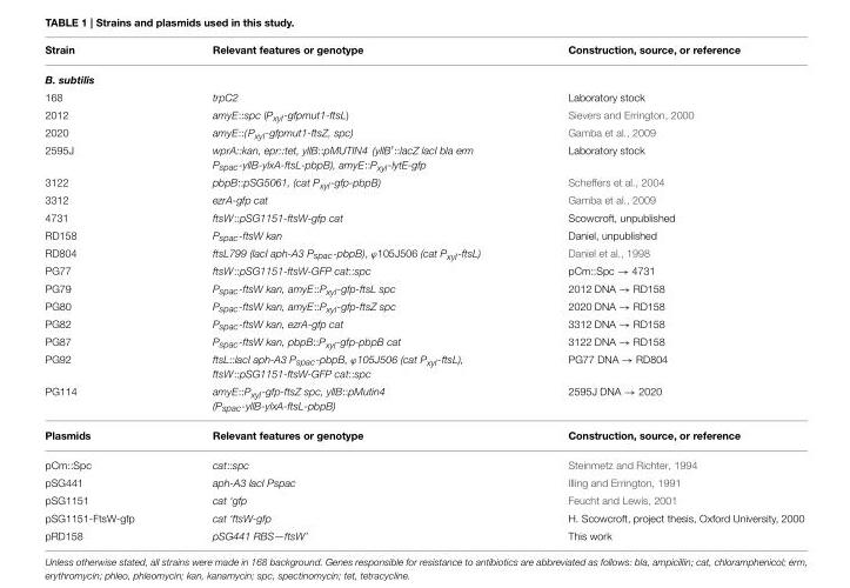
<table><thead><tr><td>Strain</td><td>Relevant features or genotype</td><td>Construction, source, or reference</td></tr></thead><tbody><tr><td colspan="3">B. subtilis</td></tr><tr><td>168</td><td>trpC2</td><td>Laboratory stock</td></tr><tr><td>2012</td><td>amyE::spc (Pxyl-gfpmut1-ftsL)</td><td>Sievers and Errington, 2000</td></tr><tr><td>2020</td><td>amyE::(P<sub>xyl</sub>-gfpmut1-ftsZ, spc)</td><td>Gamba et al., 2009</td></tr><tr><td>2595J</td><td>wprA::kan, epr::tet, yllB::pMUTIN4 (yllB′::lacZ lacI bla erm Pspac-yllB-ylxA-ftsL-pbpB), amyE::Pxyl-lytE-gfp</td><td>Laboratory stock</td></tr><tr><td>3122</td><td>pbpB::pSG5061, (cat Pxyl-gfp-pbpB)</td><td>Scheffers et al., 2004</td></tr><tr><td>3312</td><td>ezrA-gfp cat</td><td>Gamba et al., 2009</td></tr><tr><td>4731</td><td>ftsW::pSG1151-ftsW-gfp cat</td><td>Scowcroft, unpublished</td></tr><tr><td>RD158</td><td>Pspac-ftsW kan</td><td>Daniel, unpublished</td></tr><tr><td>RD804</td><td>ftsL799 (lacI aph-A3 Pspac-pbpB), ϕ105J506 (cat Pxyl-ftsL)</td><td>Daniel et al., 1998</td></tr><tr><td>PG77</td><td>ftsW::pSG1151-ftsW-GFP cat::spc</td><td>pCm::Spc → 4731</td></tr><tr><td>PG79</td><td>Pspac-ftsW kan, amyE::Pxyl-gfp-ftsL spc</td><td>2012 DNA → RD158</td></tr><tr><td>PG80</td><td>Pspac-ftsW kan, amyE::Pxyl-gfp-ftsZ spc</td><td>2020 DNA → RD158</td></tr><tr><td>PG82</td><td>Pspac-ftsW kan, ezrA-gfp cat</td><td>3312 DNA → RD158</td></tr><tr><td>PG87</td><td>Pspac-ftsW kan, pbpB::Pxyl-gfp-pbpB cat</td><td>3122 DNA → RD158</td></tr><tr><td>PG92</td><td>ftsL::lacI aph-A3 Pspac-pbpB, ϕ105J506 (cat Pxyl-ftsL), ftsW::pSG1151-ftsW-GFP cat::spc</td><td>PG77 DNA → RD804</td></tr><tr><td>PG114</td><td>amyE::Pxyl-gfp-ftsZ spc, yllB::pMutin4 (Pspac-yllB-ylxA-ftsL-pbpB)</td><td>2595J DNA → 2020</td></tr><tr><td>Plasmids</td><td>Relevant features or genotype</td><td>Construction, source, or reference</td></tr><tr><td>pCm::Spc</td><td>cat::spc</td><td>Steinmetz and Richter, 1994</td></tr><tr><td>pSG441</td><td>aph-A3 lacI Pspac</td><td>Illing and Errington, 1991</td></tr><tr><td>pSG1151</td><td>cat ‘gfp</td><td>Feucht and Lewis, 2001</td></tr><tr><td>pSG1151-FtsW-gfp</td><td>cat ‘ftsW-gfp</td><td>H. Scowcroft, project thesis, Oxford University, 2000</td></tr><tr><td>pRD158</td><td>pSG441 RBS—ftsW’</td><td>This work</td></tr></tbody></table>